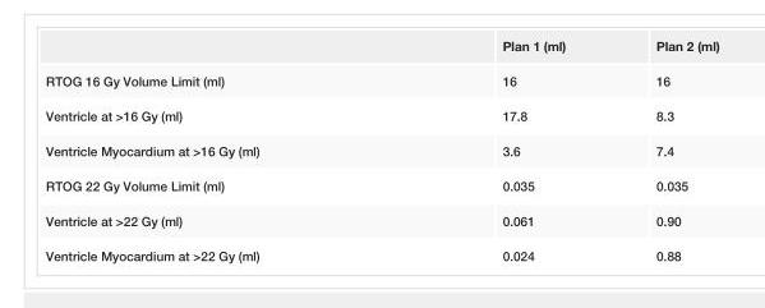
<table><thead><tr><td></td><td>Plan 1 (ml)</td><td>Plan 2 (ml)</td></tr></thead><tbody><tr><td>RTOG 16 Gy Volume Limit (ml)</td><td>16</td><td>16</td></tr><tr><td>Ventricle at &gt;16 Gy (ml)</td><td>17.8</td><td>8.3</td></tr><tr><td>Ventricle Myocardium at &gt;16 Gy (ml)</td><td>3.6</td><td>7.4</td></tr><tr><td>RTOG 22 Gy Volume Limit (ml)</td><td>0.035</td><td>0.035</td></tr><tr><td>Ventricle at &gt;22 Gy (ml)</td><td>0.061</td><td>0.90</td></tr><tr><td>Ventricle Myocardium at &gt;22 Gy (ml)</td><td>0.024</td><td>0.88</td></tr></tbody></table>